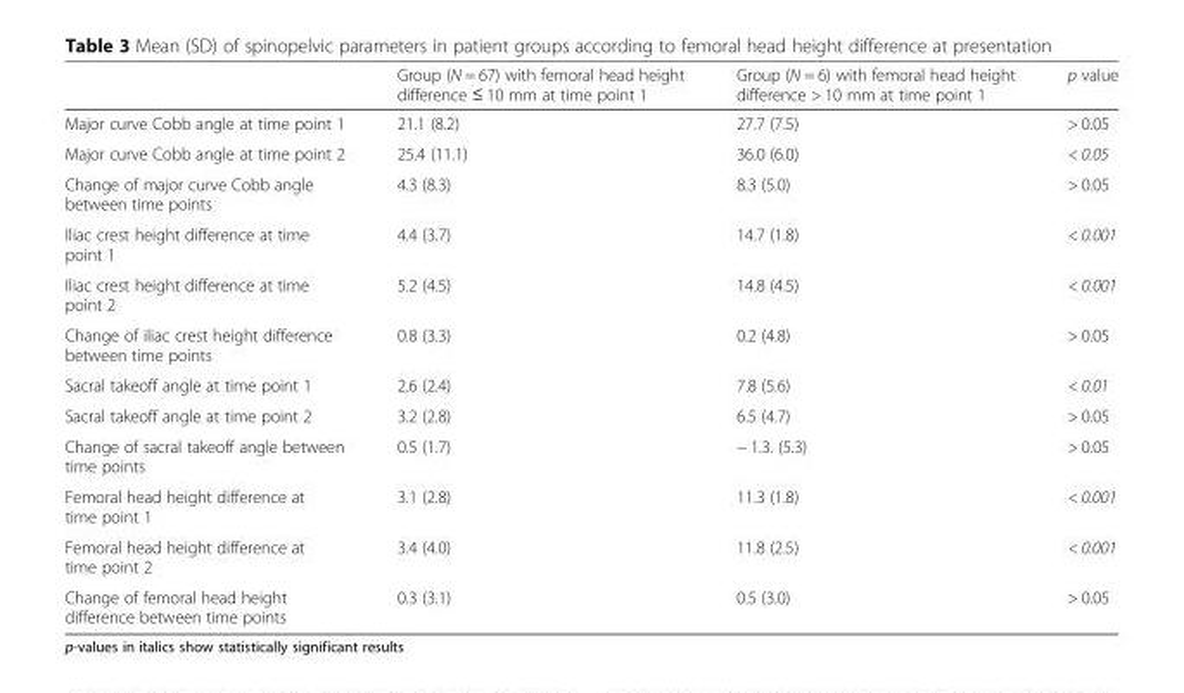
<table><thead><tr><td></td><td>Group (N = 67) with femoral head height difference ≤ 10 mm at time point 1</td><td>Group (N = 6) with femoral head height difference &gt; 10 mm at time point 1</td><td>p value</td></tr></thead><tbody><tr><td>Major curve Cobb angle at time point 1</td><td>21.1 (8.2)</td><td>27.7 (7.5)</td><td>&gt; 0.05</td></tr><tr><td>Major curve Cobb angle at time point 2</td><td>25.4 (11.1)</td><td>36.0 (6.0)</td><td>&lt; 0.05</td></tr><tr><td>Change of major curve Cobb angle between time points</td><td>4.3 (8.3)</td><td>8.3 (5.0)</td><td>&gt; 0.05</td></tr><tr><td>Iliac crest height difference at time point 1</td><td>4.4 (3.7)</td><td>14.7 (1.8)</td><td>&lt; 0.001</td></tr><tr><td>Iliac crest height difference at time point 2</td><td>5.2 (4.5)</td><td>14.8 (4.5)</td><td>&lt; 0.001</td></tr><tr><td>Change of iliac crest height difference between time points</td><td>0.8 (3.3)</td><td>0.2 (4.8)</td><td>&gt; 0.05</td></tr><tr><td>Sacral takeoff angle at time point 1</td><td>2.6 (2.4)</td><td>7.8 (5.6)</td><td>&lt; 0.01</td></tr><tr><td>Sacral takeoff angle at time point 2</td><td>3.2 (2.8)</td><td>6.5 (4.7)</td><td>&gt; 0.05</td></tr><tr><td>Change of sacral takeoff angle between time points</td><td>0.5 (1.7)</td><td>− 1.3. (5.3)</td><td>&gt; 0.05</td></tr><tr><td>Femoral head height difference at time point 1</td><td>3.1 (2.8)</td><td>11.3 (1.8)</td><td>&lt; 0.001</td></tr><tr><td>Femoral head height difference at time point 2</td><td>3.4 (4.0)</td><td>11.8 (2.5)</td><td>&lt; 0.001</td></tr><tr><td>Change of femoral head height difference between time points</td><td>0.3 (3.1)</td><td>0.5 (3.0)</td><td>&gt; 0.05</td></tr></tbody></table>